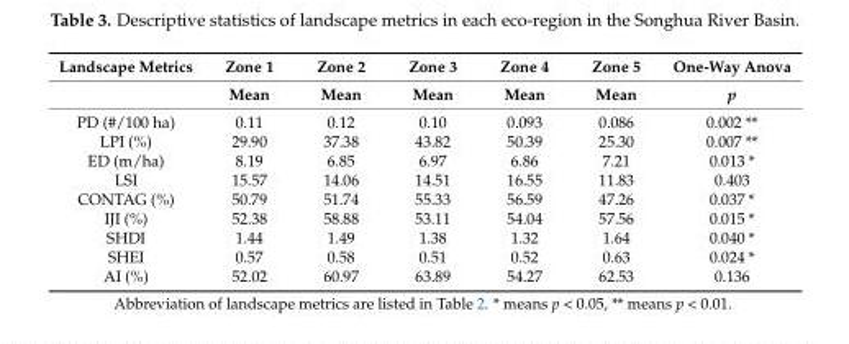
<table><thead><tr><td rowspan="2">Landscape Metrics</td><td rowspan="2">Zone 1 Mean</td><td rowspan="2">Zone 2 Mean</td><td rowspan="2">Zone 3 Mean</td><td rowspan="2">Zone 4 Mean</td><td rowspan="2">Zone 5 Mean</td><td rowspan="2">One-Way Anova p</td></tr><tr></tr></thead><tbody><tr><td>PD (#/100 ha)</td><td>0.11</td><td>0.12</td><td>0.10</td><td>0.093</td><td>0.086</td><td>0.002 **</td></tr><tr><td>LPI (%)</td><td>29.90</td><td>37.38</td><td>43.82</td><td>50.39</td><td>25.30</td><td>0.007 **</td></tr><tr><td>ED (m/ha)</td><td>8.19</td><td>6.85</td><td>6.97</td><td>6.86</td><td>7.21</td><td>0.013 *</td></tr><tr><td>LSI</td><td>15.57</td><td>14.06</td><td>14.51</td><td>16.55</td><td>11.83</td><td>0.403</td></tr><tr><td>CONTAG (%)</td><td>50.79</td><td>51.74</td><td>55.33</td><td>56.59</td><td>47.26</td><td>0.037 *</td></tr><tr><td>IJI (%)</td><td>52.38</td><td>58.88</td><td>53.11</td><td>54.04</td><td>57.56</td><td>0.015 *</td></tr><tr><td>SHDI</td><td>1.44</td><td>1.49</td><td>1.38</td><td>1.32</td><td>1.64</td><td>0.040 *</td></tr><tr><td>SHEI</td><td>0.57</td><td>0.58</td><td>0.51</td><td>0.52</td><td>0.63</td><td>0.024 *</td></tr><tr><td>AI (%)</td><td>52.02</td><td>60.97</td><td>63.89</td><td>54.27</td><td>62.53</td><td>0.136</td></tr></tbody></table>